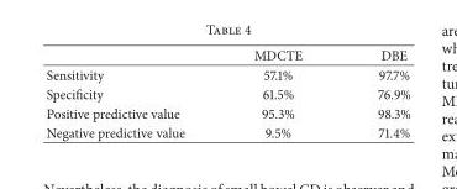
<table><thead><tr><td></td><td>MDCTE</td><td>DBE</td></tr></thead><tbody><tr><td>Sensitivity</td><td>57.1%</td><td>97.7%</td></tr><tr><td>Specificity</td><td>61.5%</td><td>76.9%</td></tr><tr><td>Positive predictive value</td><td>95.3%</td><td>98.3%</td></tr><tr><td>Negative predictive value</td><td>9.5%</td><td>71.4%</td></tr></tbody></table>